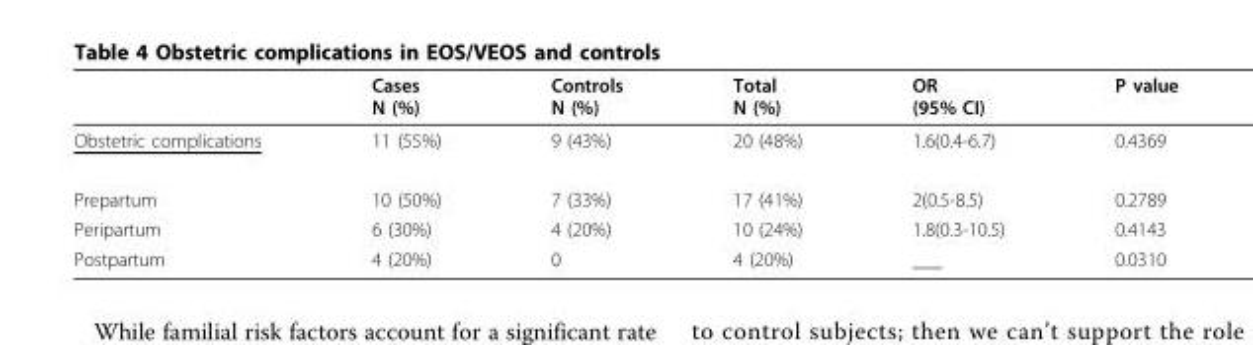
<table><thead><tr><td></td><td>Cases N (%)</td><td>Controls N (%)</td><td>Total N (%)</td><td>OR (95% CI)</td><td>P value</td></tr></thead><tbody><tr><td>Obstetric complications</td><td>11 (55%)</td><td>9 (43%)</td><td>20 (48%)</td><td>1.6(0.4-6.7)</td><td>0.4369</td></tr><tr><td>Prepartum</td><td>10 (50%)</td><td>7 (33%)</td><td>17 (41%)</td><td>2(0.5-8.5)</td><td>0.2789</td></tr><tr><td>Peripartum</td><td>6 (30%)</td><td>4 (20%)</td><td>10 (24%)</td><td>1.8(0.3-10.5)</td><td>0.4143</td></tr><tr><td>Postpartum</td><td>4 (20%)</td><td>0</td><td>4 (20%)</td><td>___</td><td>0.0310</td></tr></tbody></table>